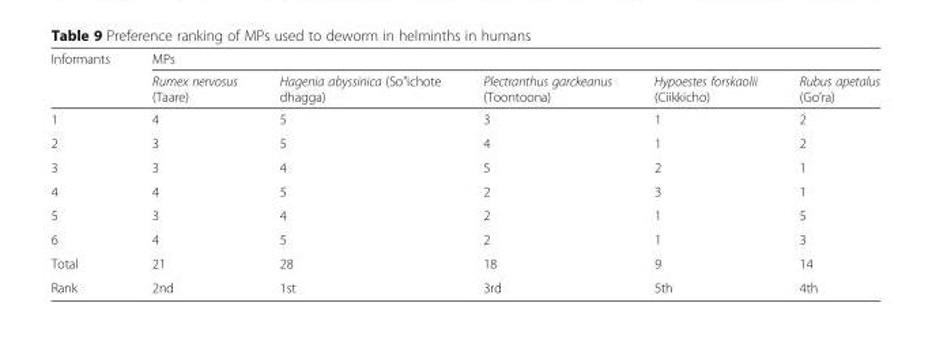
<table><thead><tr><td rowspan="2">Informants</td><td colspan="5">MPs</td></tr><tr><td>Rumex nervosus (Taare)</td><td>Hagenia abyssinica (So”ichote dhagga)</td><td>Plectranthus garckeanus (Toontoona)</td><td>Hypoestes forskaolii (Ciikkicho)</td><td>Rubus apetalus (Go’ra)</td></tr></thead><tbody><tr><td>1</td><td>4</td><td>5</td><td>3</td><td>1</td><td>2</td></tr><tr><td>2</td><td>3</td><td>5</td><td>4</td><td>1</td><td>2</td></tr><tr><td>3</td><td>3</td><td>4</td><td>5</td><td>2</td><td>1</td></tr><tr><td>4</td><td>4</td><td>5</td><td>2</td><td>3</td><td>1</td></tr><tr><td>5</td><td>3</td><td>4</td><td>2</td><td>1</td><td>5</td></tr><tr><td>6</td><td>4</td><td>5</td><td>2</td><td>1</td><td>3</td></tr><tr><td>Total</td><td>21</td><td>28</td><td>18</td><td>9</td><td>14</td></tr><tr><td>Rank</td><td>2nd</td><td>1st</td><td>3rd</td><td>5th</td><td>4th</td></tr></tbody></table>